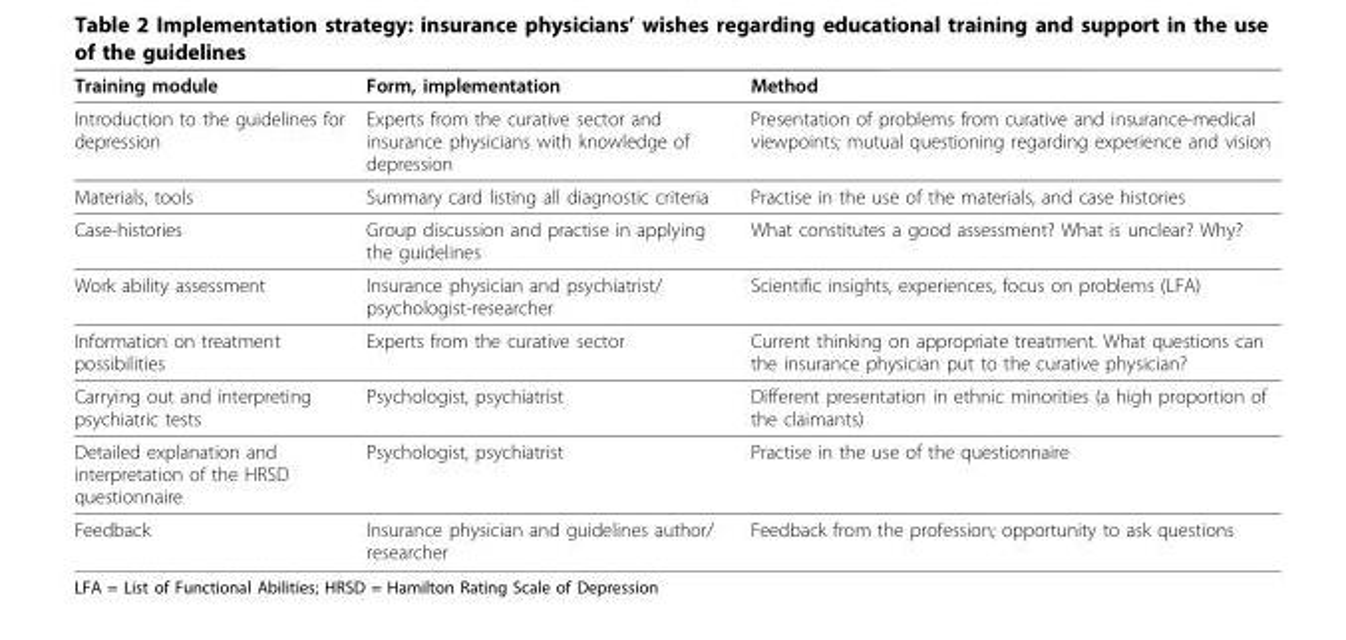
<table><thead><tr><td>Training module</td><td>Form, implementation</td><td>Method</td></tr></thead><tbody><tr><td>Introduction to the guidelines for depression</td><td>Experts from the curative sector and insurance physicians with knowledge of depression</td><td>Presentation of problems from curative and insurance-medical viewpoints; mutual questioning regarding experience and vision</td></tr><tr><td>Materials, tools</td><td>Summary card listing all diagnostic criteria</td><td>Practise in the use of the materials, and case histories</td></tr><tr><td>Case-histories</td><td>Group discussion and practise in applying the guidelines</td><td>What constitutes a good assessment? What is unclear? Why?</td></tr><tr><td>Work ability assessment</td><td>Insurance physician and psychiatrist/ psychologist-researcher</td><td>Scientific insights, experiences, focus on problems (LFA)</td></tr><tr><td>Information on treatment possibilities</td><td>Experts from the curative sector</td><td>Current thinking on appropriate treatment. What questions can the insurance physician put to the curative physician?</td></tr><tr><td>Carrying out and interpreting psychiatric tests</td><td>Psychologist, psychiatrist</td><td>Different presentation in ethnic minorities (a high proportion of the claimants)</td></tr><tr><td>Detailed explanation and interpretation of the HRSD questionnaire</td><td>Psychologist, psychiatrist</td><td>Practise in the use of the questionnaire</td></tr><tr><td>Feedback</td><td>Insurance physician and guidelines author/ researcher</td><td>Feedback from the profession; opportunity to ask questions</td></tr></tbody></table>